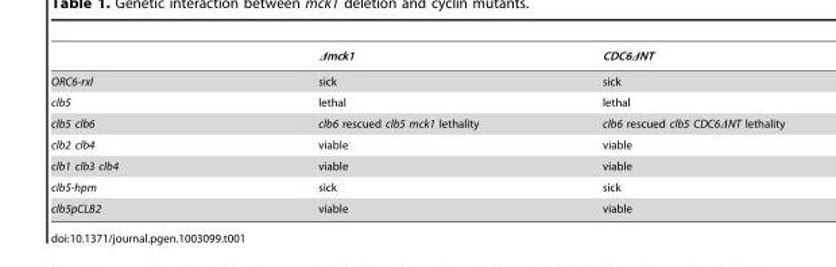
<table><thead><tr><td></td><td>Δmck1</td><td>CDC6ΔNT</td></tr></thead><tbody><tr><td>ORC6-rxl</td><td>sick</td><td>sick</td></tr><tr><td>clb5</td><td>lethal</td><td>lethal</td></tr><tr><td>clb5 clb6</td><td>clb6 rescued clb5 mck1 lethality</td><td>clb6 rescued clb5 CDC6ΔNT lethality</td></tr><tr><td>clb2 clb4</td><td>viable</td><td>viable</td></tr><tr><td>clb1 clb3 clb4</td><td>viable</td><td>viable</td></tr><tr><td>clb5-hpm</td><td>sick</td><td>sick</td></tr><tr><td>clb5pCLB2</td><td>viable</td><td>viable</td></tr></tbody></table>